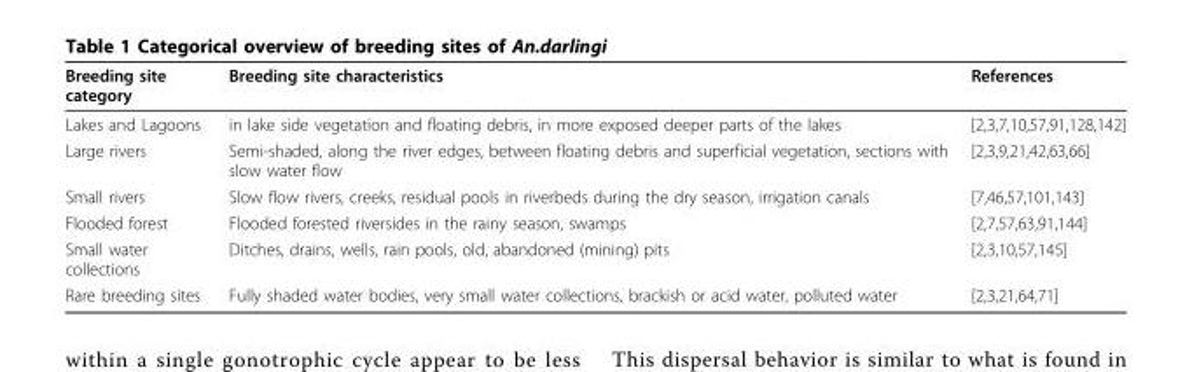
<table><thead><tr><td>Breeding site category</td><td>Breeding site characteristics</td><td>References</td></tr></thead><tbody><tr><td>Lakes and Lagoons</td><td>in lake side vegetation and floating debris, in more exposed deeper parts of the lakes</td><td>[2,3,7,10,57,91,128,142]</td></tr><tr><td>Large rivers</td><td>Semi-shaded, along the river edges, between floating debris and superficial vegetation, sections with slow water flow</td><td>[2,3,9,21,42,63,66]</td></tr><tr><td>Small rivers</td><td>Slow flow rivers, creeks, residual pools in riverbeds during the dry season, irrigation canals</td><td>[7,46,57,101,143]</td></tr><tr><td>Flooded forest</td><td>Flooded forested riversides in the rainy season, swamps</td><td>[2,7,57,63,91,144]</td></tr><tr><td>Small water collections</td><td>Ditches, drains, wells, rain pools, old, abandoned (mining) pits</td><td>[2,3,10,57,145]</td></tr><tr><td>Rare breeding sites</td><td>Fully shaded water bodies, very small water collections, brackish or acid water, polluted water</td><td>[2,3,21,64,71]</td></tr></tbody></table>